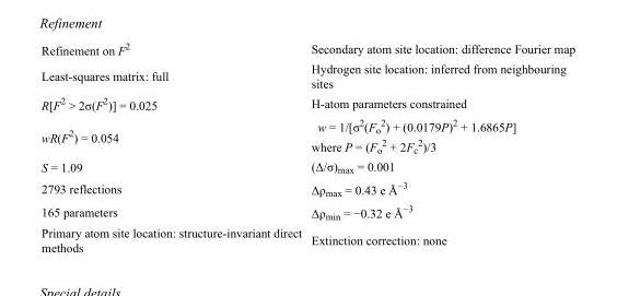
<table><tbody><tr><td>Refinement on F<sup>2</sup></td><td>Secondary atom site location: difference Fourier map</td></tr><tr><td>Least-squares matrix: full</td><td>Hydrogen site location: inferred from neighbouring sites</td></tr><tr><td>R[F<sup>2</sup> &gt; 2σ(F<sup>2</sup>)] = 0.025</td><td>H-atom parameters constrained</td></tr><tr><td>wR(F<sup>2</sup>) = 0.054</td><td>w = 1/[σ<sup>2</sup>(F<sub>o</sub> <sup>2</sup>) + (0.0179P)<sup>2</sup> + 1.6865P] where P = (F<sub>o</sub> <sup>2</sup> + 2F<sub>c</sub> <sup>2</sup>)/3</td></tr><tr><td>S = 1.09</td><td>(Δ/σ)<sub>max</sub> = 0.001</td></tr><tr><td>2793 reflections</td><td>Δρ<sub>max</sub> = 0.43 e Å<sup>−3</sup></td></tr><tr><td>165 parameters</td><td>Δρ<sub>min</sub> = −0.32 e Å<sup>−3</sup></td></tr><tr><td>Primary atom site location: structure-invariant direct methods</td><td>Extinction correction: none</td></tr></tbody></table>